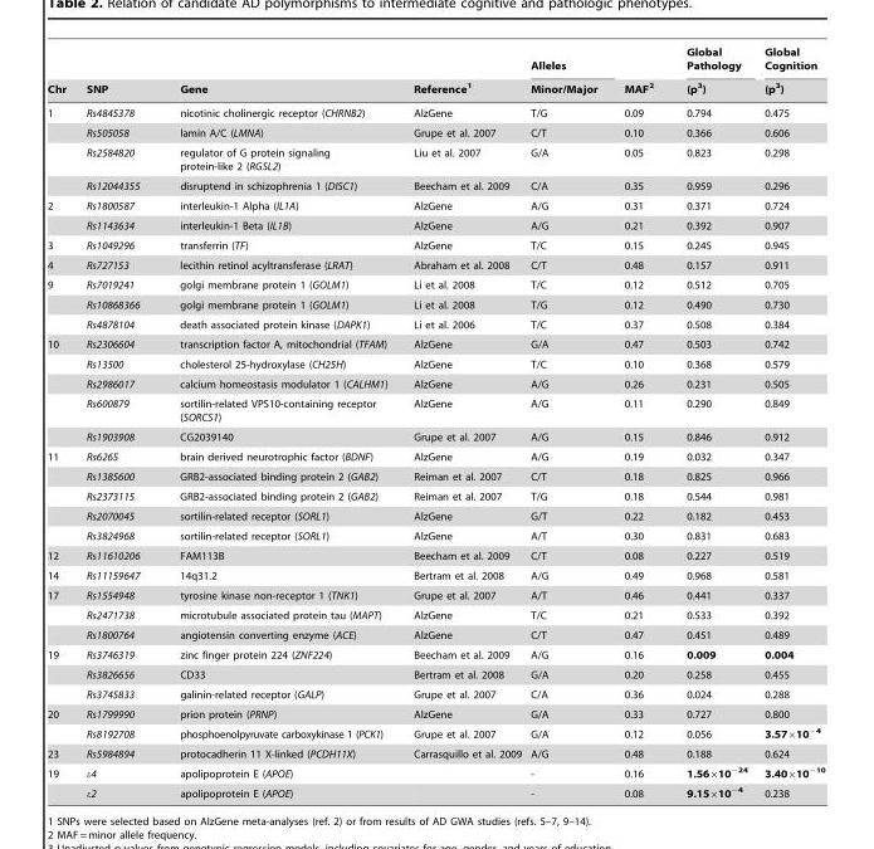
<table><thead><tr><td rowspan="2">Chr</td><td rowspan="2">SNP</td><td rowspan="2">Gene</td><td rowspan="2">Reference<sup>1</sup></td><td rowspan="2">Alleles Minor/Major</td><td rowspan="2">MAF<sup>2</sup></td><td rowspan="2">Global Pathology (p<sup>3</sup>)</td><td rowspan="2">Global Cognition (p<sup>3</sup>)</td></tr><tr></tr></thead><tbody><tr><td rowspan="4">1</td><td>Rs4845378</td><td>nicotinic cholinergic receptor (CHRNB2)</td><td>AlzGene</td><td>T/G</td><td>0.09</td><td>0.794</td><td>0.475</td></tr><tr><td>Rs505058</td><td>lamin A/C (LMNA)</td><td>Grupe et al. 2007</td><td>C/T</td><td>0.10</td><td>0.366</td><td>0.606</td></tr><tr><td>Rs2584820</td><td>regulator of G protein signaling protein-like 2 (RGSL2)</td><td>Liu et al. 2007</td><td>G/A</td><td>0.05</td><td>0.823</td><td>0.298</td></tr><tr><td>Rs12044355</td><td>disruptend in schizophrenia 1 (DISC1)</td><td>Beecham et al. 2009</td><td>C/A</td><td>0.35</td><td>0.959</td><td>0.296</td></tr><tr><td rowspan="2">2</td><td>Rs1800587</td><td>interleukin-1 Alpha (IL1A)</td><td>AlzGene</td><td>A/G</td><td>0.31</td><td>0.371</td><td>0.724</td></tr><tr><td>Rs1143634</td><td>interleukin-1 Beta (IL1B)</td><td>AlzGene</td><td>A/G</td><td>0.21</td><td>0.392</td><td>0.907</td></tr><tr><td>3</td><td>Rs1049296</td><td>transferrin (TF)</td><td>AlzGene</td><td>T/C</td><td>0.15</td><td>0.245</td><td>0.945</td></tr><tr><td>4</td><td>Rs727153</td><td>lecithin retinol acyltransferase (LRAT)</td><td>Abraham et al. 2008</td><td>C/T</td><td>0.48</td><td>0.157</td><td>0.911</td></tr><tr><td rowspan="3">9</td><td>Rs7019241</td><td>golgi membrane protein 1 (GOLM1)</td><td>Li et al. 2008</td><td>T/C</td><td>0.12</td><td>0.512</td><td>0.705</td></tr><tr><td>Rs10868366</td><td>golgi membrane protein 1 (GOLM1)</td><td>Li et al. 2008</td><td>T/G</td><td>0.12</td><td>0.490</td><td>0.730</td></tr><tr><td>Rs4878104</td><td>death associated protein kinase (DAPK1)</td><td>Li et al. 2006</td><td>T/C</td><td>0.37</td><td>0.508</td><td>0.384</td></tr><tr><td rowspan="5">10</td><td>Rs2306604</td><td>transcription factor A, mitochondrial (TFAM)</td><td>AlzGene</td><td>G/A</td><td>0.47</td><td>0.503</td><td>0.742</td></tr><tr><td>Rs13500</td><td>cholesterol 25-hydroxylase (CH25H)</td><td>AlzGene</td><td>T/C</td><td>0.10</td><td>0.368</td><td>0.579</td></tr><tr><td>Rs2986017</td><td>calcium homeostasis modulator 1 (CALHM1)</td><td>AlzGene</td><td>A/G</td><td>0.26</td><td>0.231</td><td>0.505</td></tr><tr><td>Rs600879</td><td>sortilin-related VPS10-containing receptor (SORCS1)</td><td>AlzGene</td><td>A/G</td><td>0.11</td><td>0.290</td><td>0.849</td></tr><tr><td>Rs1903908</td><td>CG2039140</td><td>Grupe et al. 2007</td><td>A/G</td><td>0.15</td><td>0.846</td><td>0.912</td></tr><tr><td rowspan="5">11</td><td>Rs6265</td><td>brain derived neurotrophic factor (BDNF)</td><td>AlzGene</td><td>A/G</td><td>0.19</td><td>0.032</td><td>0.347</td></tr><tr><td>Rs1385600</td><td>GRB2-associated binding protein 2 (GAB2)</td><td>Reiman et al. 2007</td><td>C/T</td><td>0.18</td><td>0.825</td><td>0.966</td></tr><tr><td>Rs2373115</td><td>GRB2-associated binding protein 2 (GAB2)</td><td>Reiman et al. 2007</td><td>T/G</td><td>0.18</td><td>0.544</td><td>0.981</td></tr><tr><td>Rs2070045</td><td>sortilin-related receptor (SORL1)</td><td>AlzGene</td><td>G/T</td><td>0.22</td><td>0.182</td><td>0.453</td></tr><tr><td>Rs3824968</td><td>sortilin-related receptor (SORL1)</td><td>AlzGene</td><td>A/T</td><td>0.30</td><td>0.831</td><td>0.683</td></tr><tr><td>12</td><td>Rs11610206</td><td>FAM113B</td><td>Beecham et al. 2009</td><td>C/T</td><td>0.08</td><td>0.227</td><td>0.519</td></tr><tr><td>14</td><td>Rs11159647</td><td>14q31.2</td><td>Bertram et al. 2008</td><td>A/G</td><td>0.49</td><td>0.968</td><td>0.581</td></tr><tr><td rowspan="3">17</td><td>Rs1554948</td><td>tyrosine kinase non-receptor 1 (TNK1)</td><td>Grupe et al. 2007</td><td>A/T</td><td>0.46</td><td>0.441</td><td>0.337</td></tr><tr><td>Rs2471738</td><td>microtubule associated protein tau (MAPT)</td><td>AlzGene</td><td>T/C</td><td>0.21</td><td>0.533</td><td>0.392</td></tr><tr><td>Rs1800764</td><td>angiotensin converting enzyme (ACE)</td><td>AlzGene</td><td>C/T</td><td>0.47</td><td>0.451</td><td>0.489</td></tr><tr><td rowspan="3">19</td><td>Rs3746319</td><td>zinc finger protein 224 (ZNF224)</td><td>Beecham et al. 2009</td><td>A/G</td><td>0.16</td><td>0.009</td><td>0.004</td></tr><tr><td>Rs3826656</td><td>CD33</td><td>Bertram et al. 2008</td><td>G/A</td><td>0.20</td><td>0.258</td><td>0.455</td></tr><tr><td>Rs3745833</td><td>galinin-related receptor (GALP)</td><td>Grupe et al. 2007</td><td>C/A</td><td>0.36</td><td>0.024</td><td>0.288</td></tr><tr><td rowspan="2">20</td><td>Rs1799990</td><td>prion protein (PRNP)</td><td>AlzGene</td><td>G/A</td><td>0.33</td><td>0.727</td><td>0.800</td></tr><tr><td>Rs8192708</td><td>phosphoenolpyruvate carboxykinase 1 (PCK1)</td><td>Grupe et al. 2007</td><td>G/A</td><td>0.12</td><td>0.056</td><td>3.57×10<sup>−4</sup></td></tr><tr><td>23</td><td>Rs5984894</td><td>protocadherin 11 X-linked (PCDH11X)</td><td>Carrasquillo et al. 2009</td><td>A/G</td><td>0.48</td><td>0.188</td><td>0.624</td></tr><tr><td rowspan="2">19</td><td>ε4</td><td>apolipoprotein E (APOE)</td><td></td><td>-</td><td>0.16</td><td>1.56×10<sup>−24</sup></td><td>3.40×10<sup>−10</sup></td></tr><tr><td>ε2</td><td>apolipoprotein E (APOE)</td><td></td><td>-</td><td>0.08</td><td>9.15×10<sup>−4</sup></td><td>0.238</td></tr></tbody></table>